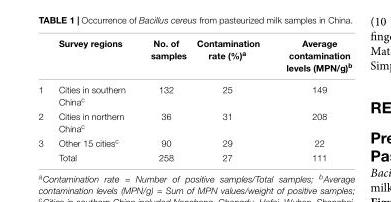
<table><thead><tr><td></td><td>Survey regions</td><td>No. of samples</td><td>Contamination rate (%)<sup>a</sup></td><td>Average contamination levels (MPN/g)<sup>b</sup></td></tr></thead><tbody><tr><td>1</td><td>Cities in southern China<sup>c</sup></td><td>132</td><td>25</td><td>149</td></tr><tr><td>2</td><td>Cities in northern China<sup>c</sup></td><td>36</td><td>31</td><td>208</td></tr><tr><td rowspan="2">3</td><td>Other 15 cities<sup>c</sup></td><td>90</td><td>29</td><td>22</td></tr><tr><td>Total</td><td>258</td><td>27</td><td>111</td></tr></tbody></table>